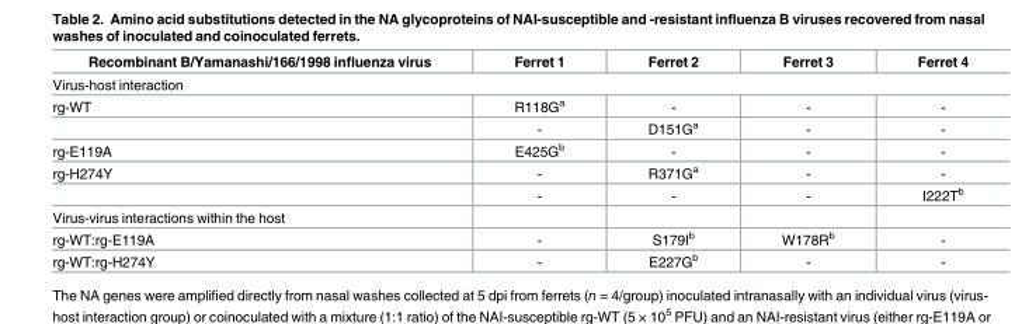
<table><thead><tr><td>Recombinant B/Yamanashi/166/1998 influenza virus</td><td>Ferret 1</td><td>Ferret 2</td><td>Ferret 3</td><td>Ferret 4</td></tr></thead><tbody><tr><td colspan="5">Virus-host interaction</td></tr><tr><td rowspan="2">rg-WT</td><td>R118G<sup>a</sup></td><td>-</td><td>-</td><td>-</td></tr><tr><td>-</td><td>D151G<sup>a</sup></td><td>-</td><td>-</td></tr><tr><td>rg-E119A</td><td>E425G<sup>b</sup></td><td>-</td><td>-</td><td>-</td></tr><tr><td rowspan="2">rg-H274Y</td><td>-</td><td>R371G<sup>a</sup></td><td>-</td><td>-</td></tr><tr><td>-</td><td>-</td><td>-</td><td>I222T<sup>b</sup></td></tr><tr><td colspan="5">Virus-virus interactions within the host</td></tr><tr><td>rg-WT:rg-E119A</td><td>-</td><td>S179I<sup>b</sup></td><td>W178R<sup>b</sup></td><td>-</td></tr><tr><td>rg-WT:rg-H274Y</td><td>-</td><td>E227G<sup>b</sup></td><td>-</td><td>-</td></tr></tbody></table>